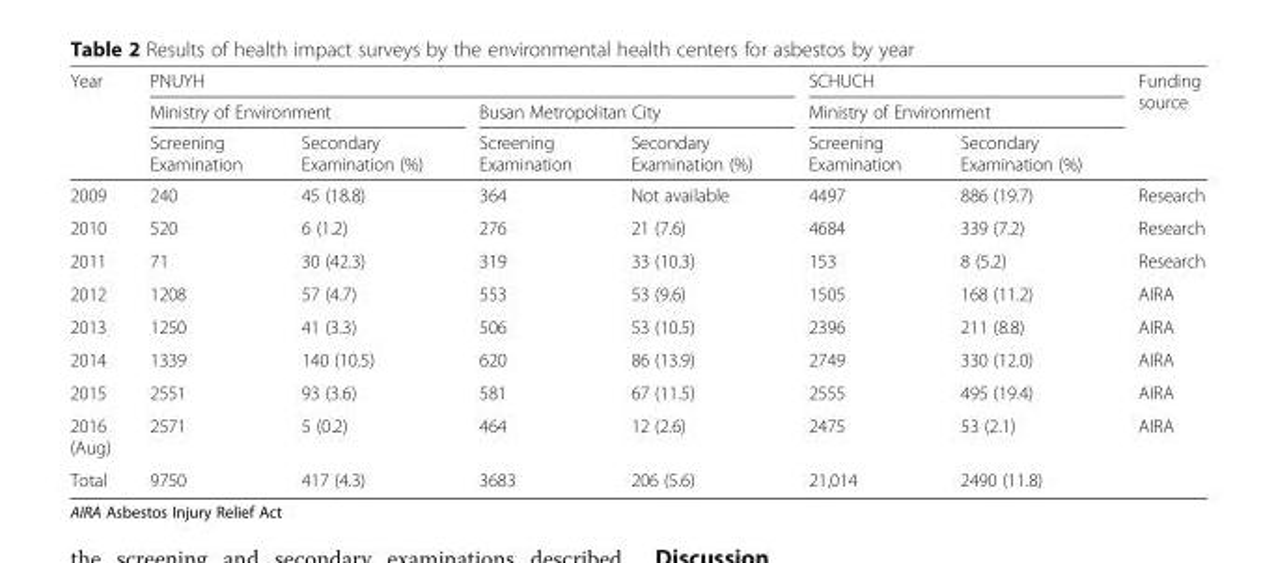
<table><thead><tr><td rowspan="3">Year</td><td colspan="4">PNUYH</td><td rowspan="2" colspan="2">SCHUCH Ministry of Environment</td><td rowspan="3">Funding source</td></tr><tr><td colspan="2">Ministry of Environment</td><td colspan="2">Busan Metropolitan City</td></tr><tr><td>Screening Examination</td><td>Secondary Examination (%)</td><td>Screening Examination</td><td>Secondary Examination (%)</td><td>Screening Examination</td><td>Secondary Examination (%)</td></tr></thead><tbody><tr><td>2009</td><td>240</td><td>45 (18.8)</td><td>364</td><td>Not available</td><td>4497</td><td>886 (19.7)</td><td>Research</td></tr><tr><td>2010</td><td>520</td><td>6 (1.2)</td><td>276</td><td>21 (7.6)</td><td>4684</td><td>339 (7.2)</td><td>Research</td></tr><tr><td>2011</td><td>71</td><td>30 (42.3)</td><td>319</td><td>33 (10.3)</td><td>153</td><td>8 (5.2)</td><td>Research</td></tr><tr><td>2012</td><td>1208</td><td>57 (4.7)</td><td>553</td><td>53 (9.6)</td><td>1505</td><td>168 (11.2)</td><td>AIRA</td></tr><tr><td>2013</td><td>1250</td><td>41 (3.3)</td><td>506</td><td>53 (10.5)</td><td>2396</td><td>211 (8.8)</td><td>AIRA</td></tr><tr><td>2014</td><td>1339</td><td>140 (10.5)</td><td>620</td><td>86 (13.9)</td><td>2749</td><td>330 (12.0)</td><td>AIRA</td></tr><tr><td>2015</td><td>2551</td><td>93 (3.6)</td><td>581</td><td>67 (11.5)</td><td>2555</td><td>495 (19.4)</td><td>AIRA</td></tr><tr><td>2016 (Aug)</td><td>2571</td><td>5 (0.2)</td><td>464</td><td>12 (2.6)</td><td>2475</td><td>53 (2.1)</td><td>AIRA</td></tr><tr><td>Total</td><td>9750</td><td>417 (4.3)</td><td>3683</td><td>206 (5.6)</td><td>21,014</td><td>2490 (11.8)</td><td></td></tr></tbody></table>